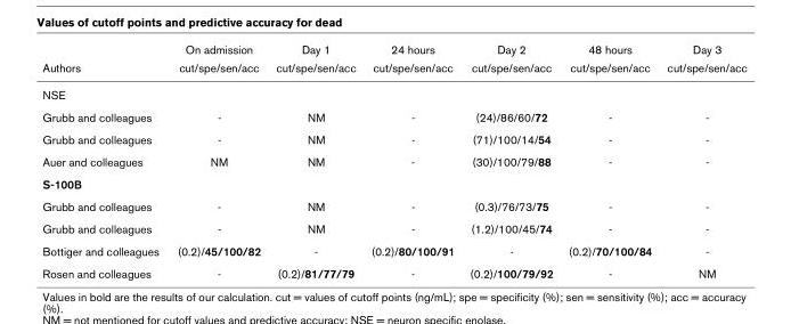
<table><thead><tr><td rowspan="2">Authors</td><td rowspan="2">On admission cut/spe/sen/acc</td><td rowspan="2">Day 1 cut/spe/sen/acc</td><td rowspan="2">24 hours cut/spe/sen/acc</td><td rowspan="2">Day 2 cut/spe/sen/acc</td><td rowspan="2">48 hours cut/spe/sen/acc</td><td rowspan="2">Day 3 cut/spe/sen/acc</td></tr><tr></tr></thead><tbody><tr><td colspan="7">NSE</td></tr><tr><td>Grubb and colleagues</td><td>-</td><td>NM</td><td>-</td><td>(24)/86/60/72</td><td>-</td><td>-</td></tr><tr><td>Grubb and colleagues</td><td>-</td><td>NM</td><td>-</td><td>(71)/100/14/54</td><td>-</td><td>-</td></tr><tr><td>Auer and colleagues</td><td>NM</td><td>NM</td><td>-</td><td>(30)/100/79/88</td><td>-</td><td>-</td></tr><tr><td colspan="7">S-100B</td></tr><tr><td>Grubb and colleagues</td><td>-</td><td>NM</td><td>-</td><td>(0.3)/76/73/75</td><td>-</td><td>-</td></tr><tr><td>Grubb and colleagues</td><td>-</td><td>NM</td><td>-</td><td>(1.2)/100/45/74</td><td>-</td><td>-</td></tr><tr><td>Bottiger and colleagues</td><td>(0.2)/45/100/82</td><td>-</td><td>(0.2)/80/100/91</td><td>-</td><td>(0.2)/70/100/84</td><td>-</td></tr><tr><td>Rosen and colleagues</td><td>-</td><td>(0.2)/81/77/79</td><td>-</td><td>(0.2)/100/79/92</td><td>-</td><td>NM</td></tr></tbody></table>